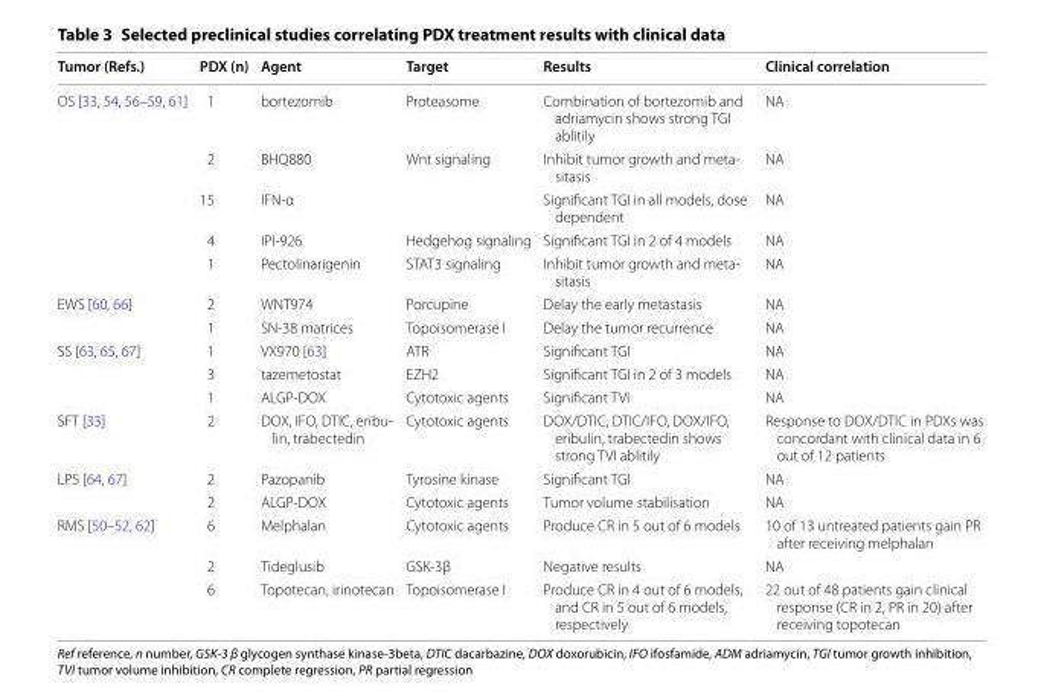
<table><thead><tr><td>Tumor (Refs.)</td><td>PDX (n)</td><td>Agent</td><td>Target</td><td>Results</td><td>Clinical correlation</td></tr></thead><tbody><tr><td rowspan="5">OS [33, 54, 56–59, 61]</td><td>1</td><td>bortezomib</td><td>Proteasome</td><td>Combination of bortezomib and adriamycin shows strong TGI ablitily</td><td>NA</td></tr><tr><td>2</td><td>BHQ880</td><td>Wnt signaling</td><td>Inhibit tumor growth and meta- sitasis</td><td>NA</td></tr><tr><td>15</td><td>IFN-α</td><td></td><td>Significant TGI in all models, dose dependent</td><td>NA</td></tr><tr><td>4</td><td>IPI-926</td><td>Hedgehog signaling</td><td>Significant TGI in 2 of 4 models</td><td>NA</td></tr><tr><td>1</td><td>Pectolinarigenin</td><td>STAT3 signaling</td><td>Inhibit tumor growth and meta- sitasis</td><td>NA</td></tr><tr><td rowspan="2">EWS [60, 66]</td><td>2</td><td>WNT974</td><td>Porcupine</td><td>Delay the early metastasis</td><td>NA</td></tr><tr><td>1</td><td>SN-38 matrices</td><td>Topoisomerase I</td><td>Delay the tumor recurrence</td><td>NA</td></tr><tr><td rowspan="3">SS [63, 65, 67]</td><td>1</td><td>VX970 [63]</td><td>ATR</td><td>Significant TGI</td><td>NA</td></tr><tr><td>3</td><td>tazemetostat</td><td>EZH2</td><td>Significant TGI in 2 of 3 models</td><td>NA</td></tr><tr><td>1</td><td>ALGP-DOX</td><td>Cytotoxic agents</td><td>Significant TVI</td><td>NA</td></tr><tr><td>SFT [33]</td><td>2</td><td>DOX, IFO, DTIC, eribu- lin, trabectedin</td><td>Cytotoxic agents</td><td>DOX/DTIC, DTIC/IFO, DOX/IFO, eribulin, trabectedin shows strong TVI ablitily</td><td>Response to DOX/DTIC in PDXs was concordant with clinical data in 6 out of 12 patients</td></tr><tr><td rowspan="2">LPS [64, 67]</td><td>2</td><td>Pazopanib</td><td>Tyrosine kinase</td><td>Significant TGI</td><td>NA</td></tr><tr><td>2</td><td>ALGP-DOX</td><td>Cytotoxic agents</td><td>Tumor volume stabilisation</td><td>NA</td></tr><tr><td rowspan="3">RMS [50–52, 62]</td><td>6</td><td>Melphalan</td><td>Cytotoxic agents</td><td>Produce CR in 5 out of 6 models</td><td>10 of 13 untreated patients gain PR after receiving melphalan</td></tr><tr><td>2</td><td>Tideglusib</td><td>GSK-3β</td><td>Negative results</td><td>NA</td></tr><tr><td>6</td><td>Topotecan, irinotecan</td><td>Topoisomerase I</td><td>Produce CR in 4 out of 6 models, and CR in 5 out of 6 models, respectively</td><td>22 out of 48 patients gain clinical response (CR in 2, PR in 20) after receiving topotecan</td></tr></tbody></table>